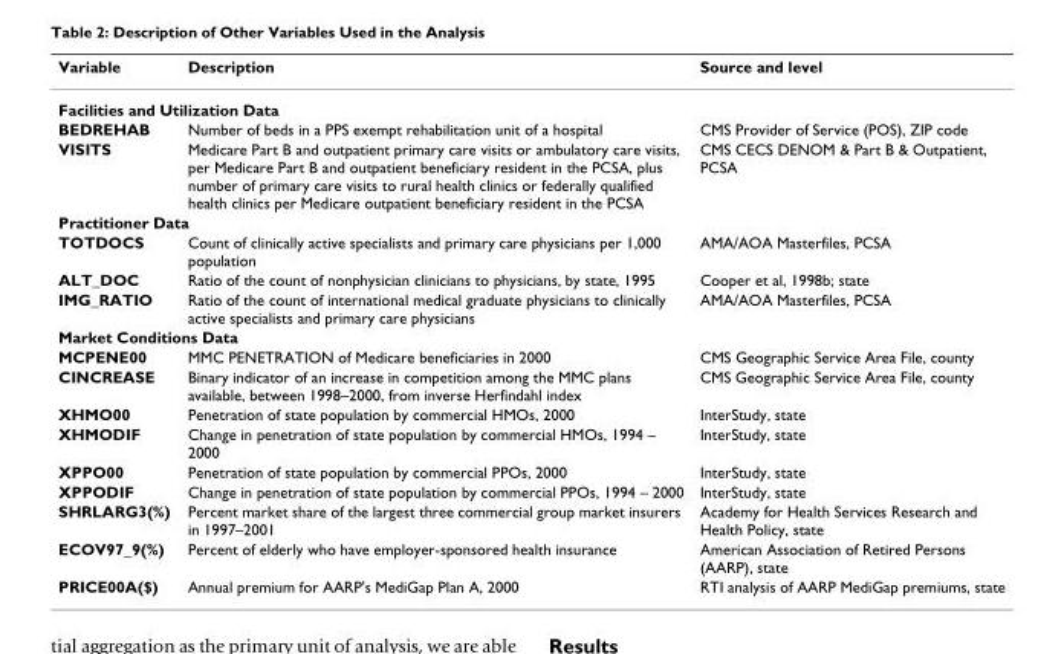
<table><thead><tr><td>Variable</td><td>Description</td><td>Source and level</td></tr></thead><tbody><tr><td colspan="3">Facilities and Utilization Data</td></tr><tr><td>BEDREHAB</td><td>Number of beds in a PPS exempt rehabilitation unit of a hospital</td><td>CMS Provider of Service (POS), ZIP code</td></tr><tr><td>VISITS</td><td>Medicare Part B and outpatient primary care visits or ambulatory care visits, per Medicare Part B and outpatient beneficiary resident in the PCSA, plus number of primary care visits to rural health clinics or federally qualified health clinics per Medicare outpatient beneficiary resident in the PCSA</td><td>CMS CECS DENOM &amp; Part B &amp; Outpatient, PCSA</td></tr><tr><td colspan="3">Practitioner Data</td></tr><tr><td>TOTDOCS</td><td>Count of clinically active specialists and primary care physicians per 1,000 population</td><td>AMA/AOA Masterfiles, PCSA</td></tr><tr><td>ALT_DOC</td><td>Ratio of the count of nonphysician clinicians to physicians, by state, 1995</td><td>Cooper et al, 1998b; state</td></tr><tr><td>IMG_RATIO</td><td>Ratio of the count of international medical graduate physicians to clinically active specialists and primary care physicians</td><td>AMA/AOA Masterfiles, PCSA</td></tr><tr><td colspan="3">Market Conditions Data</td></tr><tr><td>MCPENE00</td><td>MMC PENETRATION of Medicare beneficiaries in 2000</td><td>CMS Geographic Service Area File, county</td></tr><tr><td>CINCREASE</td><td>Binary indicator of an increase in competition among the MMC plans available, between 1998–2000, from inverse Herfindahl index</td><td>CMS Geographic Service Area File, county</td></tr><tr><td>XHMO00</td><td>Penetration of state population by commercial HMOs, 2000</td><td>InterStudy, state</td></tr><tr><td>XHMODIF</td><td>Change in penetration of state population by commercial HMOs, 1994 – 2000</td><td>InterStudy, state</td></tr><tr><td>XPPO00</td><td>Penetration of state population by commercial PPOs, 2000</td><td>InterStudy, state</td></tr><tr><td>XPPODIF</td><td>Change in penetration of state population by commercial PPOs, 1994 – 2000</td><td>InterStudy, state</td></tr><tr><td>SHRLARG3(%)</td><td>Percent market share of the largest three commercial group market insurers in 1997–2001</td><td>Academy for Health Services Research and Health Policy, state</td></tr><tr><td>ECOV97_9(%)</td><td>Percent of elderly who have employer-sponsored health insurance</td><td>American Association of Retired Persons (AARP), state</td></tr><tr><td>PRICE00A($)</td><td>Annual premium for AARP&#x27;s MediGap Plan A, 2000</td><td>RTI analysis of AARP MediGap premiums, state</td></tr></tbody></table>